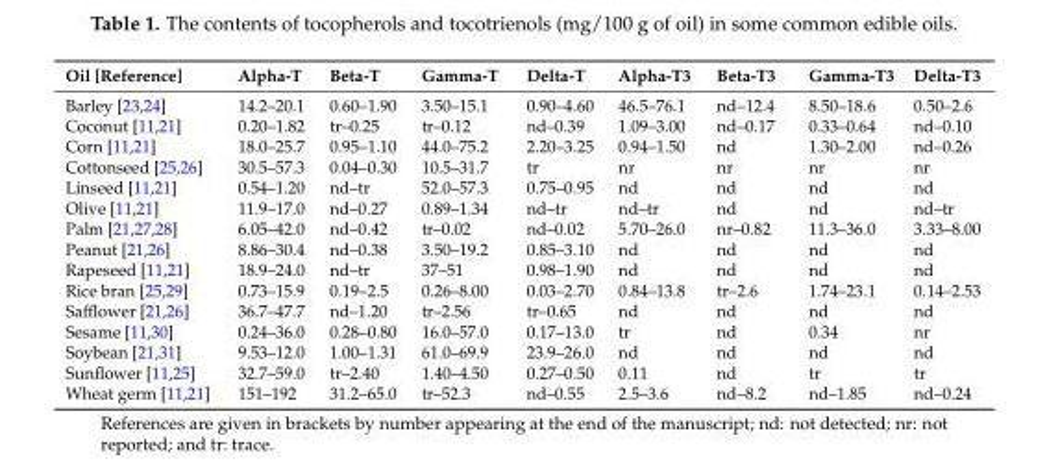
<table><thead><tr><td>Oil [Reference]</td><td>Alpha-T</td><td>Beta-T</td><td>Gamma-T</td><td>Delta-T</td><td>Alpha-T3</td><td>Beta-T3</td><td>Gamma-T3</td><td>Delta-T3</td></tr></thead><tbody><tr><td>Barley [23,24]</td><td>14.2–20.1</td><td>0.60–1.90</td><td>3.50–15.1</td><td>0.90–4.60</td><td>46.5–76.1</td><td>nd–12.4</td><td>8.50–18.6</td><td>0.50–2.6</td></tr><tr><td>Coconut [11,21]</td><td>0.20–1.82</td><td>tr–0.25</td><td>tr–0.12</td><td>nd–0.39</td><td>1.09–3.00</td><td>nd–0.17</td><td>0.33–0.64</td><td>nd–0.10</td></tr><tr><td>Corn [11,21]</td><td>18.0–25.7</td><td>0.95–1.10</td><td>44.0–75.2</td><td>2.20–3.25</td><td>0.94–1.50</td><td>nd</td><td>1.30–2.00</td><td>nd–0.26</td></tr><tr><td>Cottonseed [25,26]</td><td>30.5–57.3</td><td>0.04–0.30</td><td>10.5–31.7</td><td>tr</td><td>nr</td><td>nr</td><td>nr</td><td>nr</td></tr><tr><td>Linseed [11,21]</td><td>0.54–1.20</td><td>nd–tr</td><td>52.0–57.3</td><td>0.75–0.95</td><td>nd</td><td>nd</td><td>nd</td><td>nd</td></tr><tr><td>Olive [11,21]</td><td>11.9–17.0</td><td>nd–0.27</td><td>0.89–1.34</td><td>nd–tr</td><td>nd–tr</td><td>nd</td><td>nd</td><td>nd–tr</td></tr><tr><td>Palm [21,27,28]</td><td>6.05–42.0</td><td>nd–0.42</td><td>tr–0.02</td><td>nd–0.02</td><td>5.70–26.0</td><td>nr–0.82</td><td>11.3–36.0</td><td>3.33–8.00</td></tr><tr><td>Peanut [21,26]</td><td>8.86–30.4</td><td>nd–0.38</td><td>3.50–19.2</td><td>0.85–3.10</td><td>nd</td><td>nd</td><td>nd</td><td>nd</td></tr><tr><td>Rapeseed [11,21]</td><td>18.9–24.0</td><td>nd–tr</td><td>37–51</td><td>0.98–1.90</td><td>nd</td><td>nd</td><td>nd</td><td>nd</td></tr><tr><td>Rice bran [25,29]</td><td>0.73–15.9</td><td>0.19–2.5</td><td>0.26–8.00</td><td>0.03–2.70</td><td>0.84–13.8</td><td>tr–2.6</td><td>1.74–23.1</td><td>0.14–2.53</td></tr><tr><td>Safflower [21,26]</td><td>36.7–47.7</td><td>nd–1.20</td><td>tr–2.56</td><td>tr–0.65</td><td>nd</td><td>nd</td><td>nd</td><td>nd</td></tr><tr><td>Sesame [11,30]</td><td>0.24–36.0</td><td>0.28–0.80</td><td>16.0–57.0</td><td>0.17–13.0</td><td>tr</td><td>nd</td><td>0.34</td><td>nr</td></tr><tr><td>Soybean [21,31]</td><td>9.53–12.0</td><td>1.00–1.31</td><td>61.0–69.9</td><td>23.9–26.0</td><td>nd</td><td>nd</td><td>nd</td><td>nd</td></tr><tr><td>Sunflower [11,25]</td><td>32.7–59.0</td><td>tr–2.40</td><td>1.40–4.50</td><td>0.27–0.50</td><td>0.11</td><td>nd</td><td>tr</td><td>tr</td></tr><tr><td>Wheat germ [11,21]</td><td>151–192</td><td>31.2–65.0</td><td>tr–52.3</td><td>nd–0.55</td><td>2.5–3.6</td><td>nd–8.2</td><td>nd–1.85</td><td>nd–0.24</td></tr></tbody></table>